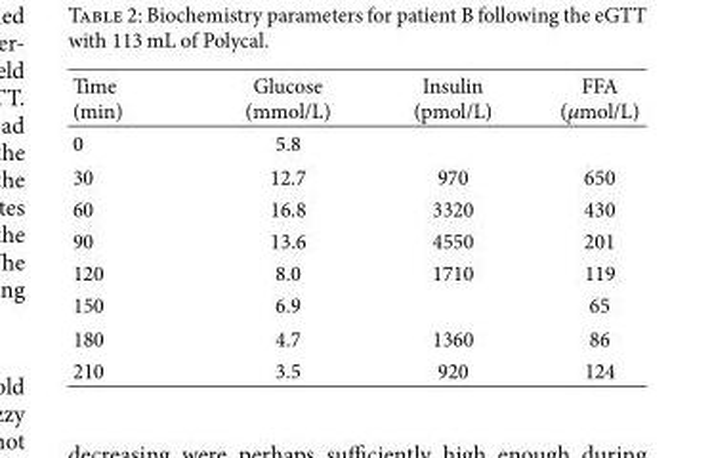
<table><thead><tr><td>Time (min)</td><td>Glucose (mmol/L)</td><td>Insulin (pmol/L)</td><td>FFA (𝜇𝜇mol/L)</td></tr></thead><tbody><tr><td>0</td><td>5.8</td><td></td><td></td></tr><tr><td>30</td><td>12.7</td><td>970</td><td>650</td></tr><tr><td>60</td><td>16.8</td><td>3320</td><td>430</td></tr><tr><td>90</td><td>13.6</td><td>4550</td><td>201</td></tr><tr><td>120</td><td>8.0</td><td>1710</td><td>119</td></tr><tr><td>150</td><td>6.9</td><td></td><td>65</td></tr><tr><td>180</td><td>4.7</td><td>1360</td><td>86</td></tr><tr><td>210</td><td>3.5</td><td>920</td><td>124</td></tr></tbody></table>